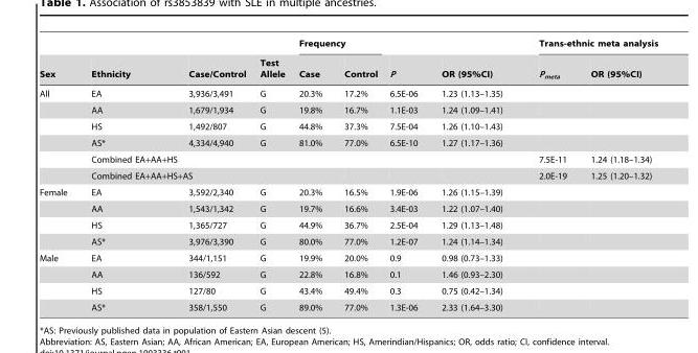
<table><thead><tr><td rowspan="2">Sex</td><td rowspan="2">Ethnicity</td><td rowspan="2">Case/Control</td><td rowspan="2">Test Allele</td><td colspan="2">Frequency</td><td rowspan="2">P</td><td rowspan="2">OR (95%CI)</td><td colspan="2">Trans-ethnic meta analysis</td></tr><tr><td>Case</td><td>Control</td><td>P<sub>meta</sub></td><td>OR (95%CI)</td></tr></thead><tbody><tr><td rowspan="6">All</td><td>EA</td><td>3,936/3,491</td><td>G</td><td>20.3%</td><td>17.2%</td><td>6.5E-06</td><td>1.23 (1.13–1.35)</td><td></td><td></td></tr><tr><td>AA</td><td>1,679/1,934</td><td>G</td><td>19.8%</td><td>16.7%</td><td>1.1E-03</td><td>1.24 (1.09–1.41)</td><td></td><td></td></tr><tr><td>HS</td><td>1,492/807</td><td>G</td><td>44.8%</td><td>37.3%</td><td>7.5E-04</td><td>1.26 (1.10–1.43)</td><td></td><td></td></tr><tr><td>AS*</td><td>4,334/4,940</td><td>G</td><td>81.0%</td><td>77.0%</td><td>6.5E-10</td><td>1.27 (1.17–1.36)</td><td></td><td></td></tr><tr><td colspan="3">Combined EA+AA+HS</td><td></td><td></td><td></td><td></td><td>7.5E-11</td><td>1.24 (1.18–1.34)</td></tr><tr><td colspan="3">Combined EA+AA+HS+AS</td><td></td><td></td><td></td><td></td><td>2.0E-19</td><td>1.25 (1.20–1.32)</td></tr><tr><td rowspan="4">Female</td><td>EA</td><td>3,592/2,340</td><td>G</td><td>20.3%</td><td>16.5%</td><td>1.9E-06</td><td>1.26 (1.15–1.39)</td><td></td><td></td></tr><tr><td>AA</td><td>1,543/1,342</td><td>G</td><td>19.7%</td><td>16.6%</td><td>3.4E-03</td><td>1.22 (1.07–1.40)</td><td></td><td></td></tr><tr><td>HS</td><td>1,365/727</td><td>G</td><td>44.9%</td><td>36.7%</td><td>2.5E-04</td><td>1.29 (1.13–1.48)</td><td></td><td></td></tr><tr><td>AS*</td><td>3,976/3,390</td><td>G</td><td>80.0%</td><td>77.0%</td><td>1.2E-07</td><td>1.24 (1.14–1.34)</td><td></td><td></td></tr><tr><td rowspan="4">Male</td><td>EA</td><td>344/1,151</td><td>G</td><td>19.9%</td><td>20.0%</td><td>0.9</td><td>0.98 (0.73–1.33)</td><td></td><td></td></tr><tr><td>AA</td><td>136/592</td><td>G</td><td>22.8%</td><td>16.8%</td><td>0.1</td><td>1.46 (0.93–2.30)</td><td></td><td></td></tr><tr><td>HS</td><td>127/80</td><td>G</td><td>43.4%</td><td>49.4%</td><td>0.3</td><td>0.75 (0.42–1.34)</td><td></td><td></td></tr><tr><td>AS*</td><td>358/1,550</td><td>G</td><td>89.0%</td><td>77.0%</td><td>1.3E-06</td><td>2.33 (1.64–3.30)</td><td></td><td></td></tr></tbody></table>